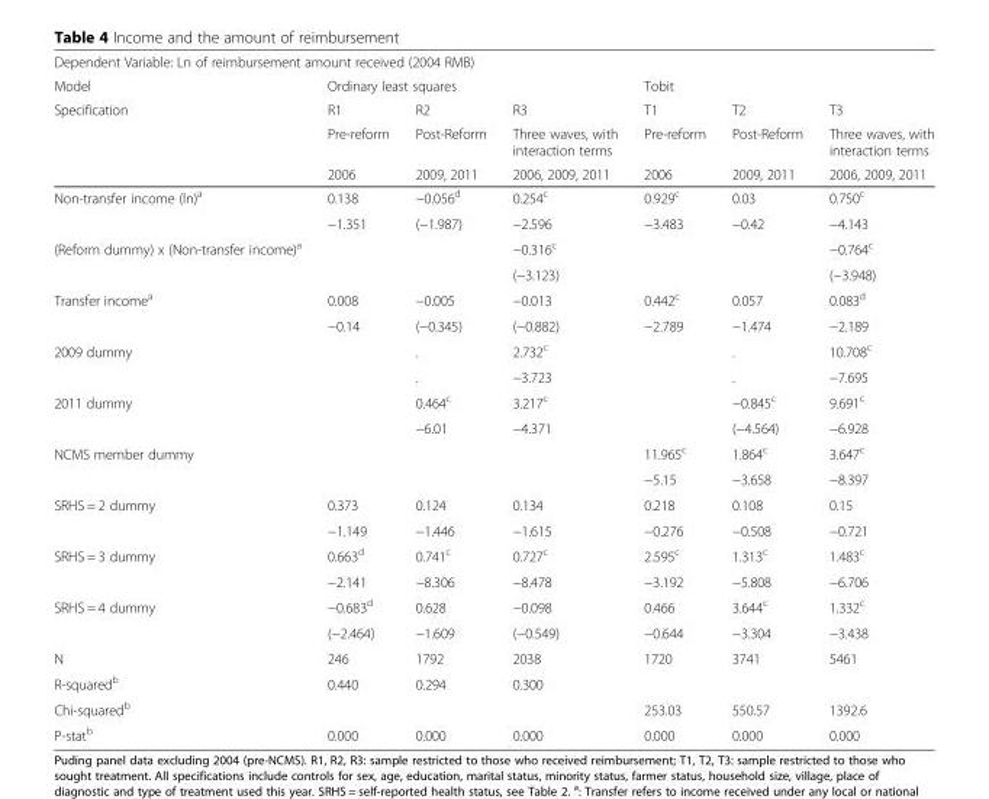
<table><thead><tr><td colspan="5">Dependent Variable: Ln of reimbursement amount received (2004 RMB)</td><td></td><td></td></tr><tr><td rowspan="4">Model Specification</td><td colspan="3">Ordinary least squares</td><td colspan="3">Tobit</td></tr><tr><td rowspan="3">R1 Pre-reform 2006</td><td rowspan="3">R2 Post-Reform 2009, 2011</td><td rowspan="3">R3 Three waves, with interaction terms 2006, 2009, 2011</td><td rowspan="3">T1 Pre-reform 2006</td><td rowspan="3">T2 Post-Reform 2009, 2011</td><td rowspan="3">T3 Three waves, with interaction terms 2006, 2009, 2011</td></tr><tr></tr><tr></tr></thead><tbody><tr><td rowspan="2">Non-transfer income (ln)<sup>a</sup></td><td>0.138</td><td>−0.056<sup>d</sup></td><td>0.254<sup>c</sup></td><td>0.929<sup>c</sup></td><td>0.03</td><td>0.750<sup>c</sup></td></tr><tr><td>−1.351</td><td>(−1.987)</td><td>−2.596</td><td>−3.483</td><td>−0.42</td><td>−4.143</td></tr><tr><td rowspan="2">(Reform dummy) x (Non-transfer income)<sup>a</sup></td><td></td><td></td><td>−0.316<sup>c</sup></td><td></td><td></td><td>−0.764<sup>c</sup></td></tr><tr><td></td><td></td><td>(−3.123)</td><td></td><td></td><td>(−3.948)</td></tr><tr><td rowspan="2">Transfer income<sup>a</sup></td><td>0.008</td><td>−0.005</td><td>−0.013</td><td>0.442<sup>c</sup></td><td>0.057</td><td>0.083<sup>d</sup></td></tr><tr><td>−0.14</td><td>(−0.345)</td><td>(−0.882)</td><td>−2.789</td><td>−1.474</td><td>−2.189</td></tr><tr><td rowspan="2">2009 dummy</td><td></td><td>.</td><td>2.732<sup>c</sup></td><td></td><td>.</td><td>10.708<sup>c</sup></td></tr><tr><td></td><td>.</td><td>−3.723</td><td></td><td>.</td><td>−7.695</td></tr><tr><td rowspan="2">2011 dummy</td><td></td><td>0.464<sup>c</sup></td><td>3.217<sup>c</sup></td><td></td><td>−0.845<sup>c</sup></td><td>9.691<sup>c</sup></td></tr><tr><td></td><td>−6.01</td><td>−4.371</td><td></td><td>(−4.564)</td><td>−6.928</td></tr><tr><td rowspan="2">NCMS member dummy</td><td></td><td></td><td></td><td>11.965<sup>c</sup></td><td>1.864<sup>c</sup></td><td>3.647<sup>c</sup></td></tr><tr><td></td><td></td><td></td><td>−5.15</td><td>−3.658</td><td>−8.397</td></tr><tr><td rowspan="2">SRHS = 2 dummy</td><td>0.373</td><td>0.124</td><td>0.134</td><td>0.218</td><td>0.108</td><td>0.15</td></tr><tr><td>−1.149</td><td>−1.446</td><td>−1.615</td><td>−0.276</td><td>−0.508</td><td>−0.721</td></tr><tr><td rowspan="2">SRHS = 3 dummy</td><td>0.663<sup>d</sup></td><td>0.741<sup>c</sup></td><td>0.727<sup>c</sup></td><td>2.595<sup>c</sup></td><td>1.313<sup>c</sup></td><td>1.483<sup>c</sup></td></tr><tr><td>−2.141</td><td>−8.306</td><td>−8.478</td><td>−3.192</td><td>−5.808</td><td>−6.706</td></tr><tr><td rowspan="2">SRHS = 4 dummy</td><td>−0.683<sup>d</sup></td><td>0.628</td><td>−0.098</td><td>0.466</td><td>3.644<sup>c</sup></td><td>1.332<sup>c</sup></td></tr><tr><td>(−2.464)</td><td>−1.609</td><td>(−0.549)</td><td>−0.644</td><td>−3.304</td><td>−3.438</td></tr><tr><td>N</td><td>246</td><td>1792</td><td>2038</td><td>1720</td><td>3741</td><td>5461</td></tr><tr><td>R-squared<sup>b</sup></td><td>0.440</td><td>0.294</td><td>0.300</td><td></td><td></td><td></td></tr><tr><td>Chi-squared<sup>b</sup></td><td></td><td></td><td></td><td>253.03</td><td>550.57</td><td>1392.6</td></tr><tr><td>P-stat<sup>b</sup></td><td>0.000</td><td>0.000</td><td>0.000</td><td>0.000</td><td>0.000</td><td>0.000</td></tr></tbody></table>